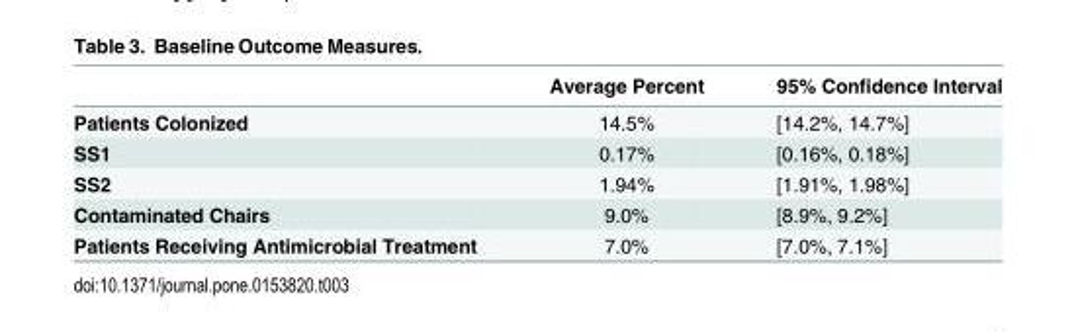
<table><thead><tr><td></td><td>Average Percent</td><td>95% Confidence Interval</td></tr></thead><tbody><tr><td>Patients Colonized</td><td>14.5%</td><td>[14.2%, 14.7%]</td></tr><tr><td>SS1</td><td>0.17%</td><td>[0.16%, 0.18%]</td></tr><tr><td>SS2</td><td>1.94%</td><td>[1.91%, 1.98%]</td></tr><tr><td>Contaminated Chairs</td><td>9.0%</td><td>[8.9%, 9.2%]</td></tr><tr><td>Patients Receiving Antimicrobial Treatment</td><td>7.0%</td><td>[7.0%, 7.1%]</td></tr></tbody></table>